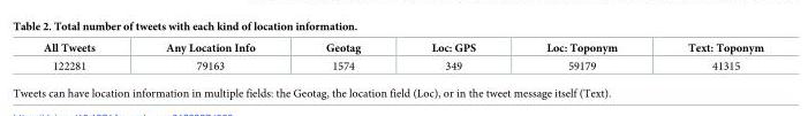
<table><thead><tr><td>All Tweets</td><td>Any Location Info</td><td>Geotag</td><td>Loc: GPS</td><td>Loc: Toponym</td><td>Text: Toponym</td></tr></thead><tbody><tr><td>122281</td><td>79163</td><td>1574</td><td>349</td><td>59179</td><td>41315</td></tr></tbody></table>